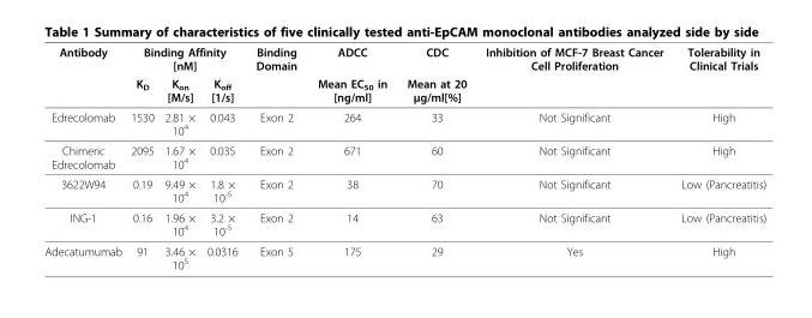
<table><thead><tr><td rowspan="2">Antibody</td><td colspan="3">Binding Affinity [nM]</td><td rowspan="2">Binding Domain</td><td rowspan="2">ADCC Mean EC<sub>50</sub> in [ng/ml]</td><td rowspan="2">CDC Mean at 20 μg/ml[%]</td><td rowspan="2">Inhibition of MCF-7 Breast Cancer Cell Proliferation</td><td rowspan="2">Tolerability in Clinical Trials</td></tr><tr><td>K<sub>D</sub></td><td>K<sub>on</sub> [M/s]</td><td>K<sub>off</sub> [1/s]</td></tr></thead><tbody><tr><td>Edrecolomab</td><td>1530</td><td>2.81 × 10<sup>4</sup></td><td>0.043</td><td>Exon 2</td><td>264</td><td>33</td><td>Not Significant</td><td>High</td></tr><tr><td>Chimeric Edrecolomab</td><td>2095</td><td>1.67 × 10<sup>4</sup></td><td>0.035</td><td>Exon 2</td><td>671</td><td>60</td><td>Not Significant</td><td>High</td></tr><tr><td>3622W94</td><td>0.19</td><td>9.49 × 10<sup>4</sup></td><td>1.8 × 10<sup>-5</sup></td><td>Exon 2</td><td>38</td><td>70</td><td>Not Significant</td><td>Low (Pancreatitis)</td></tr><tr><td>ING-1</td><td>0.16</td><td>1.96 × 10<sup>4</sup></td><td>3.2 × 10<sup>-5</sup></td><td>Exon 2</td><td>14</td><td>63</td><td>Not Significant</td><td>Low (Pancreatitis)</td></tr><tr><td>Adecatumumab</td><td>91</td><td>3.46 × 10<sup>5</sup></td><td>0.0316</td><td>Exon 5</td><td>175</td><td>29</td><td>Yes</td><td>High</td></tr></tbody></table>